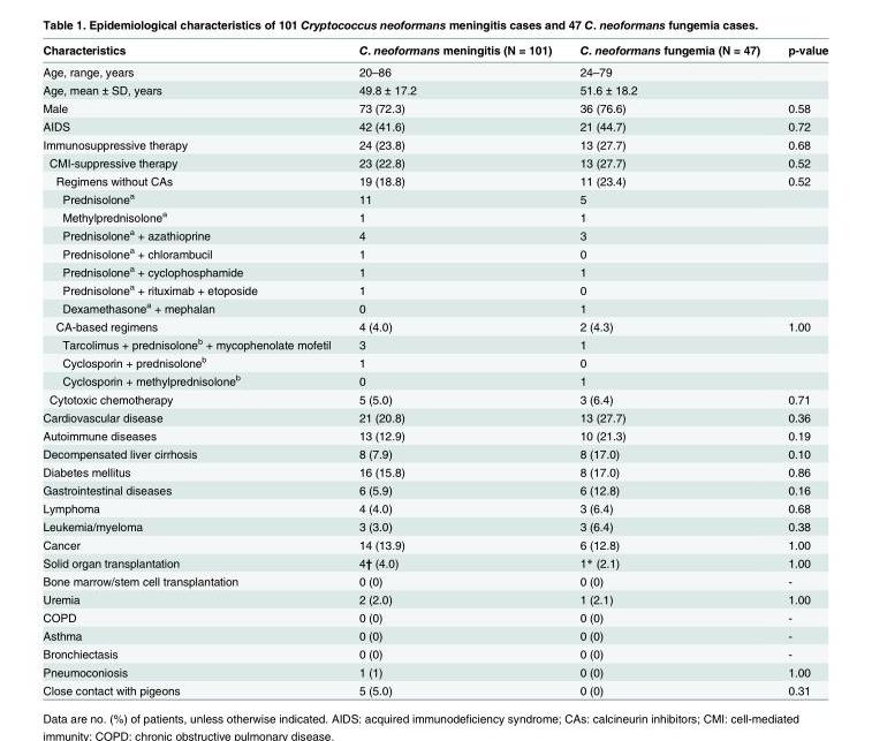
<table><thead><tr><td>Characteristics</td><td>C. neoformans meningitis (N = 101)</td><td>C. neoformans fungemia (N = 47)</td><td>p-value</td></tr></thead><tbody><tr><td>Age, range, years</td><td>20–86</td><td>24–79</td><td></td></tr><tr><td>Age, mean ± SD, years</td><td>49.8 ± 17.2</td><td>51.6 ± 18.2</td><td></td></tr><tr><td>Male</td><td>73 (72.3)</td><td>36 (76.6)</td><td>0.58</td></tr><tr><td>AIDS</td><td>42 (41.6)</td><td>21 (44.7)</td><td>0.72</td></tr><tr><td>Immunosuppressive therapy</td><td>24 (23.8)</td><td>13 (27.7)</td><td>0.68</td></tr><tr><td>CMI-suppressive therapy</td><td>23 (22.8)</td><td>13 (27.7)</td><td>0.52</td></tr><tr><td>Regimens without CAs</td><td>19 (18.8)</td><td>11 (23.4)</td><td>0.52</td></tr><tr><td>Prednisolone<sup>a</sup></td><td>11</td><td>5</td><td></td></tr><tr><td>Methylprednisolone<sup>a</sup></td><td>1</td><td>1</td><td></td></tr><tr><td>Prednisolone<sup>a</sup> + azathioprine</td><td>4</td><td>3</td><td></td></tr><tr><td>Prednisolone<sup>a</sup> + chlorambucil</td><td>1</td><td>0</td><td></td></tr><tr><td>Prednisolone<sup>a</sup> + cyclophosphamide</td><td>1</td><td>1</td><td></td></tr><tr><td>Prednisolone<sup>a</sup> + rituximab + etoposide</td><td>1</td><td>0</td><td></td></tr><tr><td>Dexamethasone<sup>a</sup> + mephalan</td><td>0</td><td>1</td><td></td></tr><tr><td>CA-based regimens</td><td>4 (4.0)</td><td>2 (4.3)</td><td>1.00</td></tr><tr><td>Tarcolimus + prednisolone<sup>b</sup> + mycophenolate mofetil</td><td>3</td><td>1</td><td></td></tr><tr><td>Cyclosporin + prednisolone<sup>b</sup></td><td>1</td><td>0</td><td></td></tr><tr><td>Cyclosporin + methylprednisolone<sup>b</sup></td><td>0</td><td>1</td><td></td></tr><tr><td>Cytotoxic chemotherapy</td><td>5 (5.0)</td><td>3 (6.4)</td><td>0.71</td></tr><tr><td>Cardiovascular disease</td><td>21 (20.8)</td><td>13 (27.7)</td><td>0.36</td></tr><tr><td>Autoimmune diseases</td><td>13 (12.9)</td><td>10 (21.3)</td><td>0.19</td></tr><tr><td>Decompensated liver cirrhosis</td><td>8 (7.9)</td><td>8 (17.0)</td><td>0.10</td></tr><tr><td>Diabetes mellitus</td><td>16 (15.8)</td><td>8 (17.0)</td><td>0.86</td></tr><tr><td>Gastrointestinal diseases</td><td>6 (5.9)</td><td>6 (12.8)</td><td>0.16</td></tr><tr><td>Lymphoma</td><td>4 (4.0)</td><td>3 (6.4)</td><td>0.68</td></tr><tr><td>Leukemia/myeloma</td><td>3 (3.0)</td><td>3 (6.4)</td><td>0.38</td></tr><tr><td>Cancer</td><td>14 (13.9)</td><td>6 (12.8)</td><td>1.00</td></tr><tr><td>Solid organ transplantation</td><td>4† (4.0)</td><td>1* (2.1)</td><td>1.00</td></tr><tr><td>Bone marrow/stem cell transplantation</td><td>0 (0)</td><td>0 (0)</td><td>-</td></tr><tr><td>Uremia</td><td>2 (2.0)</td><td>1 (2.1)</td><td>1.00</td></tr><tr><td>COPD</td><td>0 (0)</td><td>0 (0)</td><td>-</td></tr><tr><td>Asthma</td><td>0 (0)</td><td>0 (0)</td><td>-</td></tr><tr><td>Bronchiectasis</td><td>0 (0)</td><td>0 (0)</td><td>-</td></tr><tr><td>Pneumoconiosis</td><td>1 (1)</td><td>0 (0)</td><td>1.00</td></tr><tr><td>Close contact with pigeons</td><td>5 (5.0)</td><td>0 (0)</td><td>0.31</td></tr></tbody></table>